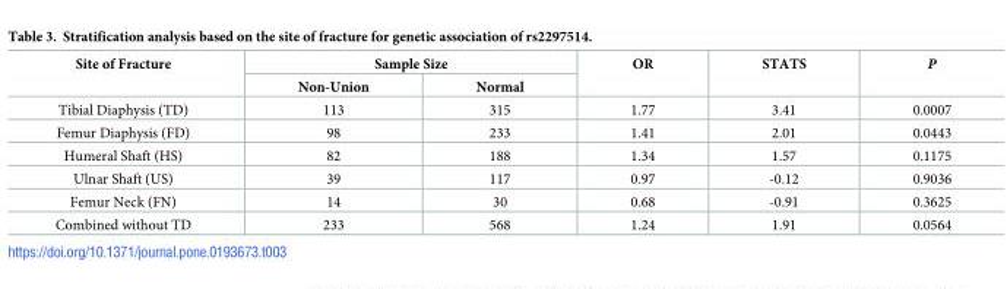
<table><thead><tr><td rowspan="2">Site of Fracture</td><td colspan="2">Sample Size</td><td rowspan="2">OR</td><td rowspan="2">STATS</td><td rowspan="2">P</td></tr><tr><td>Non-Union</td><td>Normal</td></tr></thead><tbody><tr><td>Tibial Diaphysis (TD)</td><td>113</td><td>315</td><td>1.77</td><td>3.41</td><td>0.0007</td></tr><tr><td>Femur Diaphysis (FD)</td><td>98</td><td>233</td><td>1.41</td><td>2.01</td><td>0.0443</td></tr><tr><td>Humeral Shaft (HS)</td><td>82</td><td>188</td><td>1.34</td><td>1.57</td><td>0.1175</td></tr><tr><td>Ulnar Shaft (US)</td><td>39</td><td>117</td><td>0.97</td><td>-0.12</td><td>0.9036</td></tr><tr><td>Femur Neck (FN)</td><td>14</td><td>30</td><td>0.68</td><td>-0.91</td><td>0.3625</td></tr><tr><td>Combined without TD</td><td>233</td><td>568</td><td>1.24</td><td>1.91</td><td>0.0564</td></tr></tbody></table>